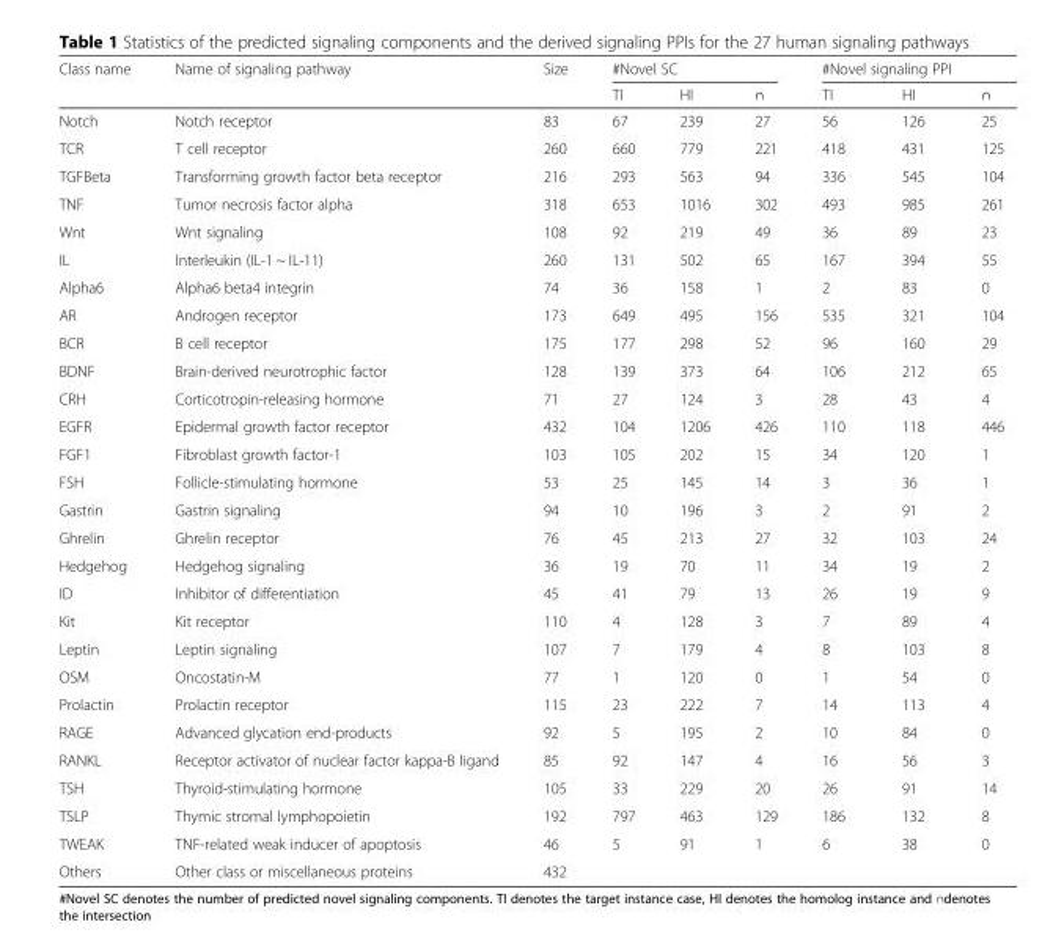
<table><thead><tr><td rowspan="2">Class name</td><td rowspan="2">Name of signaling pathway</td><td rowspan="2">Size</td><td colspan="3">#Novel SC</td><td colspan="3">#Novel signaling PPI</td></tr><tr><td>TI</td><td>HI</td><td>∩</td><td>TI</td><td>HI</td><td>∩</td></tr></thead><tbody><tr><td>Notch</td><td>Notch receptor</td><td>83</td><td>67</td><td>239</td><td>27</td><td>56</td><td>126</td><td>25</td></tr><tr><td>TCR</td><td>T cell receptor</td><td>260</td><td>660</td><td>779</td><td>221</td><td>418</td><td>431</td><td>125</td></tr><tr><td>TGFBeta</td><td>Transforming growth factor beta receptor</td><td>216</td><td>293</td><td>563</td><td>94</td><td>336</td><td>545</td><td>104</td></tr><tr><td>TNF</td><td>Tumor necrosis factor alpha</td><td>318</td><td>653</td><td>1016</td><td>302</td><td>493</td><td>985</td><td>261</td></tr><tr><td>Wnt</td><td>Wnt signaling</td><td>108</td><td>92</td><td>219</td><td>49</td><td>36</td><td>89</td><td>23</td></tr><tr><td>IL</td><td>Interleukin (IL-1 ~ IL-11)</td><td>260</td><td>131</td><td>502</td><td>65</td><td>167</td><td>394</td><td>55</td></tr><tr><td>Alpha6</td><td>Alpha6 beta4 integrin</td><td>74</td><td>36</td><td>158</td><td>1</td><td>2</td><td>83</td><td>0</td></tr><tr><td>AR</td><td>Androgen receptor</td><td>173</td><td>649</td><td>495</td><td>156</td><td>535</td><td>321</td><td>104</td></tr><tr><td>BCR</td><td>B cell receptor</td><td>175</td><td>177</td><td>298</td><td>52</td><td>96</td><td>160</td><td>29</td></tr><tr><td>BDNF</td><td>Brain-derived neurotrophic factor</td><td>128</td><td>139</td><td>373</td><td>64</td><td>106</td><td>212</td><td>65</td></tr><tr><td>CRH</td><td>Corticotropin-releasing hormone</td><td>71</td><td>27</td><td>124</td><td>3</td><td>28</td><td>43</td><td>4</td></tr><tr><td>EGFR</td><td>Epidermal growth factor receptor</td><td>432</td><td>104</td><td>1206</td><td>426</td><td>110</td><td>118</td><td>446</td></tr><tr><td>FGF1</td><td>Fibroblast growth factor-1</td><td>103</td><td>105</td><td>202</td><td>15</td><td>34</td><td>120</td><td>1</td></tr><tr><td>FSH</td><td>Follicle-stimulating hormone</td><td>53</td><td>25</td><td>145</td><td>14</td><td>3</td><td>36</td><td>1</td></tr><tr><td>Gastrin</td><td>Gastrin signaling</td><td>94</td><td>10</td><td>196</td><td>3</td><td>2</td><td>91</td><td>2</td></tr><tr><td>Ghrelin</td><td>Ghrelin receptor</td><td>76</td><td>45</td><td>213</td><td>27</td><td>32</td><td>103</td><td>24</td></tr><tr><td>Hedgehog</td><td>Hedgehog signaling</td><td>36</td><td>19</td><td>70</td><td>11</td><td>34</td><td>19</td><td>2</td></tr><tr><td>ID</td><td>Inhibitor of differentiation</td><td>45</td><td>41</td><td>79</td><td>13</td><td>26</td><td>19</td><td>9</td></tr><tr><td>Kit</td><td>Kit receptor</td><td>110</td><td>4</td><td>128</td><td>3</td><td>7</td><td>89</td><td>4</td></tr><tr><td>Leptin</td><td>Leptin signaling</td><td>107</td><td>7</td><td>179</td><td>4</td><td>8</td><td>103</td><td>8</td></tr><tr><td>OSM</td><td>Oncostatin-M</td><td>77</td><td>1</td><td>120</td><td>0</td><td>1</td><td>54</td><td>0</td></tr><tr><td>Prolactin</td><td>Prolactin receptor</td><td>115</td><td>23</td><td>222</td><td>7</td><td>14</td><td>113</td><td>4</td></tr><tr><td>RAGE</td><td>Advanced glycation end-products</td><td>92</td><td>5</td><td>195</td><td>2</td><td>10</td><td>84</td><td>0</td></tr><tr><td>RANKL</td><td>Receptor activator of nuclear factor kappa-B ligand</td><td>85</td><td>92</td><td>147</td><td>4</td><td>16</td><td>56</td><td>3</td></tr><tr><td>TSH</td><td>Thyroid-stimulating hormone</td><td>105</td><td>33</td><td>229</td><td>20</td><td>26</td><td>91</td><td>14</td></tr><tr><td>TSLP</td><td>Thymic stromal lymphopoietin</td><td>192</td><td>797</td><td>463</td><td>129</td><td>186</td><td>132</td><td>8</td></tr><tr><td>TWEAK</td><td>TNF-related weak inducer of apoptosis</td><td>46</td><td>5</td><td>91</td><td>1</td><td>6</td><td>38</td><td>0</td></tr><tr><td>Others</td><td>Other class or miscellaneous proteins</td><td>432</td><td></td><td></td><td></td><td></td><td></td><td></td></tr></tbody></table>